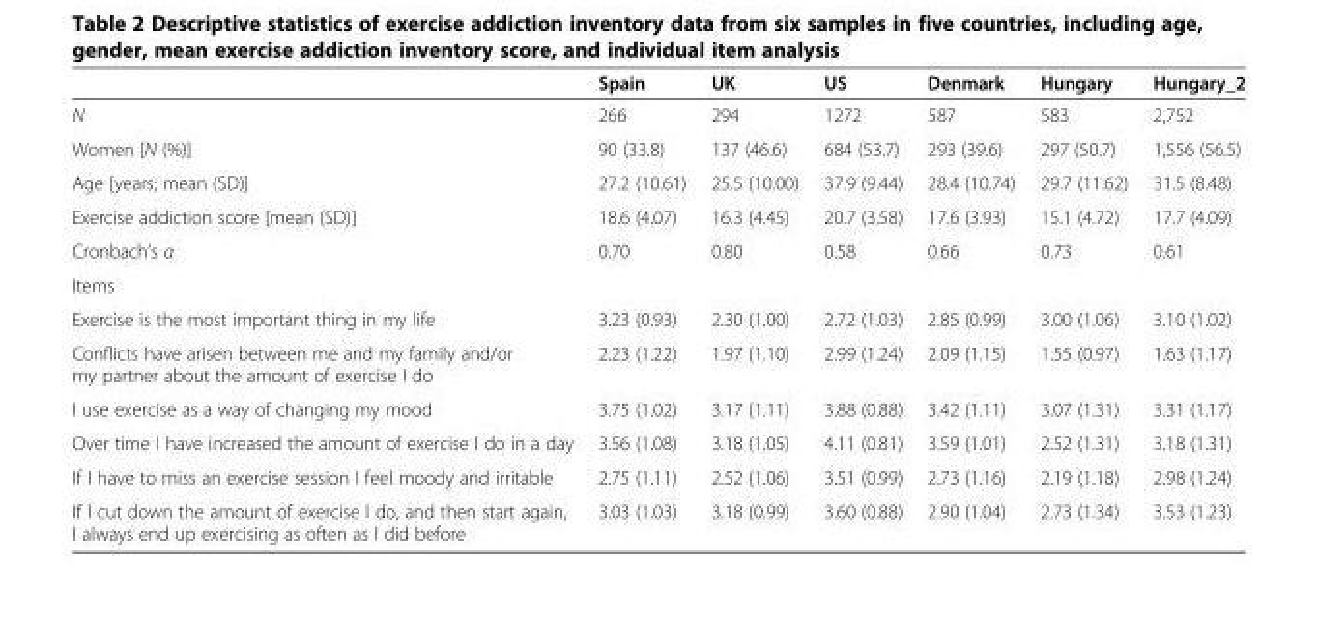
<table><thead><tr><td></td><td>Spain</td><td>UK</td><td>US</td><td>Denmark</td><td>Hungary</td><td>Hungary_2</td></tr></thead><tbody><tr><td>N</td><td>266</td><td>294</td><td>1272</td><td>587</td><td>583</td><td>2,752</td></tr><tr><td>Women [N (%)]</td><td>90 (33.8)</td><td>137 (46.6)</td><td>684 (53.7)</td><td>293 (39.6)</td><td>297 (50.7)</td><td>1,556 (56.5)</td></tr><tr><td>Age [years; mean (SD)]</td><td>27.2 (10.61)</td><td>25.5 (10.00)</td><td>37.9 (9.44)</td><td>28.4 (10.74)</td><td>29.7 (11.62)</td><td>31.5 (8.48)</td></tr><tr><td>Exercise addiction score [mean (SD)]</td><td>18.6 (4.07)</td><td>16.3 (4.45)</td><td>20.7 (3.58)</td><td>17.6 (3.93)</td><td>15.1 (4.72)</td><td>17.7 (4.09)</td></tr><tr><td>Cronbach’s α</td><td>0.70</td><td>0.80</td><td>0.58</td><td>0.66</td><td>0.73</td><td>0.61</td></tr><tr><td colspan="7">Items</td></tr><tr><td>Exercise is the most important thing in my life</td><td>3.23 (0.93)</td><td>2.30 (1.00)</td><td>2.72 (1.03)</td><td>2.85 (0.99)</td><td>3.00 (1.06)</td><td>3.10 (1.02)</td></tr><tr><td>Conflicts have arisen between me and my family and/or my partner about the amount of exercise I do</td><td>2.23 (1.22)</td><td>1.97 (1.10)</td><td>2.99 (1.24)</td><td>2.09 (1.15)</td><td>1.55 (0.97)</td><td>1.63 (1.17)</td></tr><tr><td>I use exercise as a way of changing my mood</td><td>3.75 (1.02)</td><td>3.17 (1.11)</td><td>3.88 (0.88)</td><td>3.42 (1.11)</td><td>3.07 (1.31)</td><td>3.31 (1.17)</td></tr><tr><td>Over time I have increased the amount of exercise I do in a day</td><td>3.56 (1.08)</td><td>3.18 (1.05)</td><td>4.11 (0.81)</td><td>3.59 (1.01)</td><td>2.52 (1.31)</td><td>3.18 (1.31)</td></tr><tr><td>If I have to miss an exercise session I feel moody and irritable</td><td>2.75 (1.11)</td><td>2.52 (1.06)</td><td>3.51 (0.99)</td><td>2.73 (1.16)</td><td>2.19 (1.18)</td><td>2.98 (1.24)</td></tr><tr><td>If I cut down the amount of exercise I do, and then start again, I always end up exercising as often as I did before</td><td>3.03 (1.03)</td><td>3.18 (0.99)</td><td>3.60 (0.88)</td><td>2.90 (1.04)</td><td>2.73 (1.34)</td><td>3.53 (1.23)</td></tr></tbody></table>